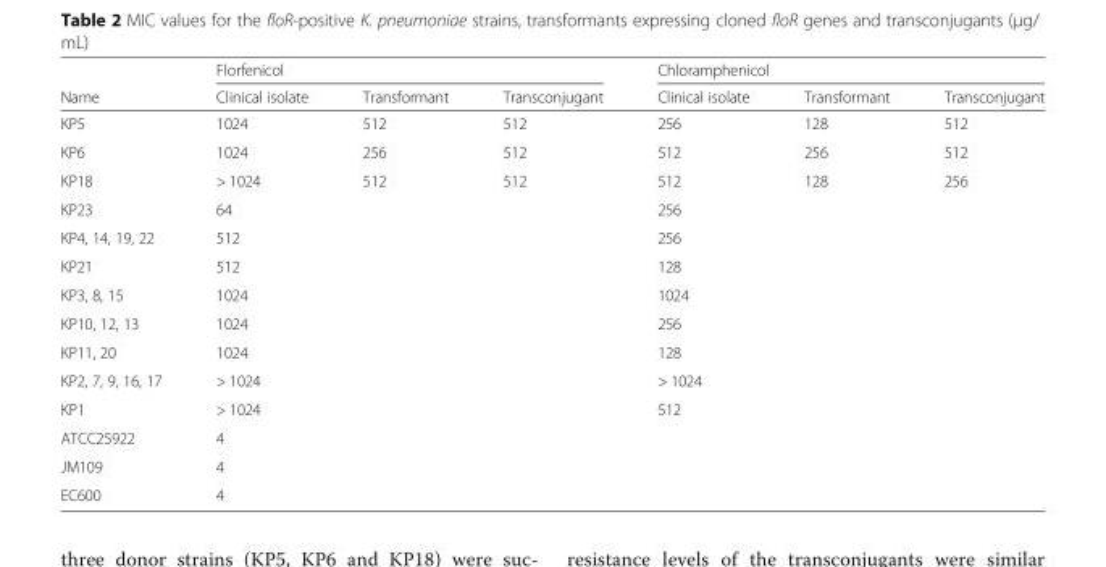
<table><thead><tr><td rowspan="2">Name</td><td colspan="3">Florfenicol</td><td colspan="3">Chloramphenicol</td></tr><tr><td>Clinical isolate</td><td>Transformant</td><td>Transconjugant</td><td>Clinical isolate</td><td>Transformant</td><td>Transconjugant</td></tr></thead><tbody><tr><td>KP5</td><td>1024</td><td>512</td><td>512</td><td>256</td><td>128</td><td>512</td></tr><tr><td>KP6</td><td>1024</td><td>256</td><td>512</td><td>512</td><td>256</td><td>512</td></tr><tr><td>KP18</td><td>&gt; 1024</td><td>512</td><td>512</td><td>512</td><td>128</td><td>256</td></tr><tr><td>KP23</td><td>64</td><td></td><td></td><td>256</td><td></td><td></td></tr><tr><td>KP4, 14, 19, 22</td><td>512</td><td></td><td></td><td>256</td><td></td><td></td></tr><tr><td>KP21</td><td>512</td><td></td><td></td><td>128</td><td></td><td></td></tr><tr><td>KP3, 8, 15</td><td>1024</td><td></td><td></td><td>1024</td><td></td><td></td></tr><tr><td>KP10, 12, 13</td><td>1024</td><td></td><td></td><td>256</td><td></td><td></td></tr><tr><td>KP11, 20</td><td>1024</td><td></td><td></td><td>128</td><td></td><td></td></tr><tr><td>KP2, 7, 9, 16, 17</td><td>&gt; 1024</td><td></td><td></td><td>&gt; 1024</td><td></td><td></td></tr><tr><td>KP1</td><td>&gt; 1024</td><td></td><td></td><td>512</td><td></td><td></td></tr><tr><td>ATCC25922</td><td>4</td><td></td><td></td><td></td><td></td><td></td></tr><tr><td>JM109</td><td>4</td><td></td><td></td><td></td><td></td><td></td></tr><tr><td>EC600</td><td>4</td><td></td><td></td><td></td><td></td><td></td></tr></tbody></table>